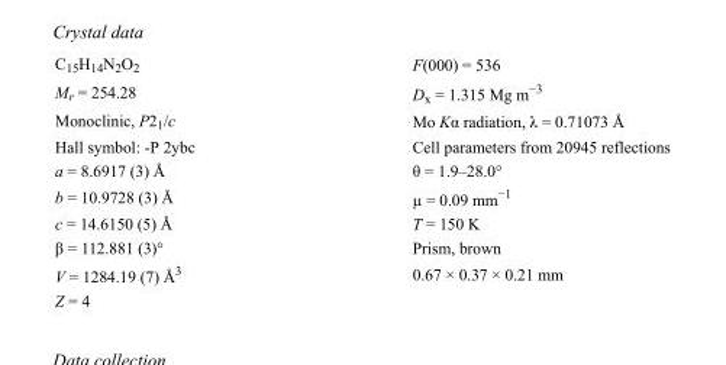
<table><tbody><tr><td>C<sub>15</sub>H<sub>14</sub>N<sub>2</sub>O<sub>2</sub></td><td>F(000) = 536</td></tr><tr><td>M<sub>r</sub> = 254.28</td><td>D<sub>x</sub> = 1.315 Mg m<sup>−3</sup></td></tr><tr><td>Monoclinic, P2<sub>1</sub>/c</td><td>Mo Kα radiation, λ = 0.71073 Å</td></tr><tr><td>Hall symbol: -P 2ybc</td><td>Cell parameters from 20945 reflections</td></tr><tr><td>a = 8.6917 (3) Å</td><td>θ = 1.9–28.0°</td></tr><tr><td>b = 10.9728 (3) Å</td><td>µ = 0.09 mm<sup>−1</sup></td></tr><tr><td>c = 14.6150 (5) Å</td><td>T = 150 K</td></tr><tr><td>β = 112.881 (3)°</td><td>Prism, brown</td></tr><tr><td>V = 1284.19 (7) Å<sup>3</sup></td><td>0.67 × 0.37 × 0.21 mm</td></tr><tr><td>Z = 4</td><td></td></tr></tbody></table>